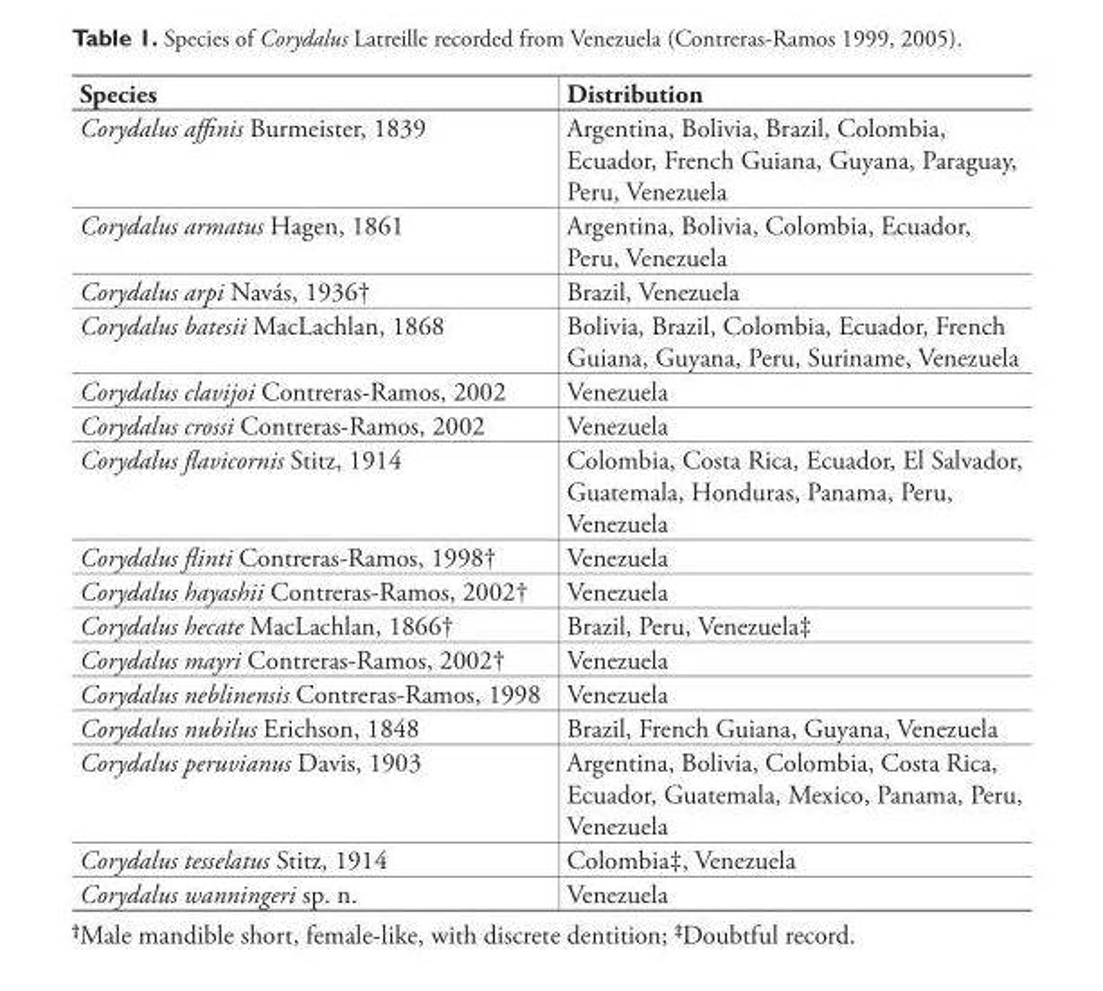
<table><thead><tr><td>Species</td><td>Distribution</td></tr></thead><tbody><tr><td>Corydalus affi nis Burmeister, 1839</td><td>Argentina, Bolivia, Brazil, Colombia, Ecuador, French Guiana, Guyana, Paraguay, Peru, Venezuela</td></tr><tr><td>Corydalus armatus Hagen, 1861</td><td>Argentina, Bolivia, Colombia, Ecuador, Peru, Venezuela</td></tr><tr><td>Corydalus arpi Navás, 1936†</td><td>Brazil, Venezuela</td></tr><tr><td>Corydalus batesii MacLachlan, 1868</td><td>Bolivia, Brazil, Colombia, Ecuador, French Guiana, Guyana, Peru, Suriname, Venezuela</td></tr><tr><td>Corydalus clavijoi Contreras-Ramos, 2002</td><td>Venezuela</td></tr><tr><td>Corydalus crossi Contreras-Ramos, 2002</td><td>Venezuela</td></tr><tr><td>Corydalus fl avicornis Stitz, 1914</td><td>Colombia, Costa Rica, Ecuador, El Salvador, Guatemala, Honduras, Panama, Peru, Venezuela</td></tr><tr><td>Corydalus fl inti Contreras-Ramos, 1998†</td><td>Venezuela</td></tr><tr><td>Corydalus hayashii Contreras-Ramos, 2002†</td><td>Venezuela</td></tr><tr><td>Corydalus hecate MacLachlan, 1866†</td><td>Brazil, Peru, Venezuela‡</td></tr><tr><td>Corydalus mayri Contreras-Ramos, 2002†</td><td>Venezuela</td></tr><tr><td>Corydalus neblinensis Contreras-Ramos, 1998</td><td>Venezuela</td></tr><tr><td>Corydalus nubilus Erichson, 1848</td><td>Brazil, French Guiana, Guyana, Venezuela</td></tr><tr><td>Corydalus peruvianus Davis, 1903</td><td>Argentina, Bolivia, Colombia, Costa Rica, Ecuador, Guatemala, Mexico, Panama, Peru, Venezuela</td></tr><tr><td>Corydalus tesselatus Stitz, 1914</td><td>Colombia‡, Venezuela</td></tr><tr><td>Corydalus wanningeri sp. n.</td><td>Venezuela</td></tr></tbody></table>